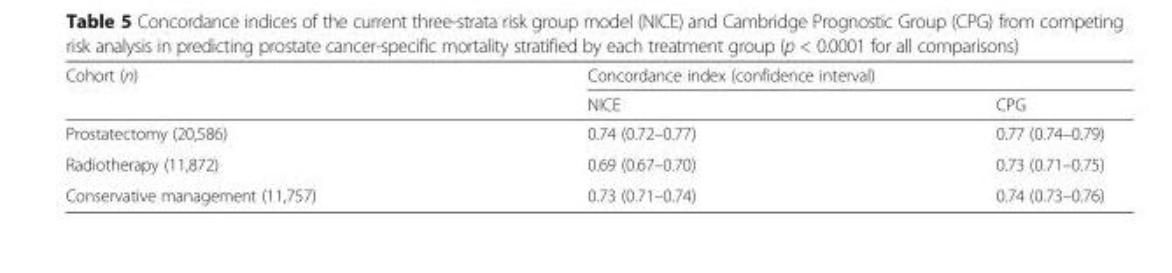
<table><thead><tr><td rowspan="2">Cohort (n)</td><td colspan="2">Concordance index (confidence interval)</td></tr><tr><td>NICE</td><td>CPG</td></tr></thead><tbody><tr><td>Prostatectomy (20,586)</td><td>0.74 (0.72–0.77)</td><td>0.77 (0.74–0.79)</td></tr><tr><td>Radiotherapy (11,872)</td><td>0.69 (0.67–0.70)</td><td>0.73 (0.71–0.75)</td></tr><tr><td>Conservative management (11,757)</td><td>0.73 (0.71–0.74)</td><td>0.74 (0.73–0.76)</td></tr></tbody></table>